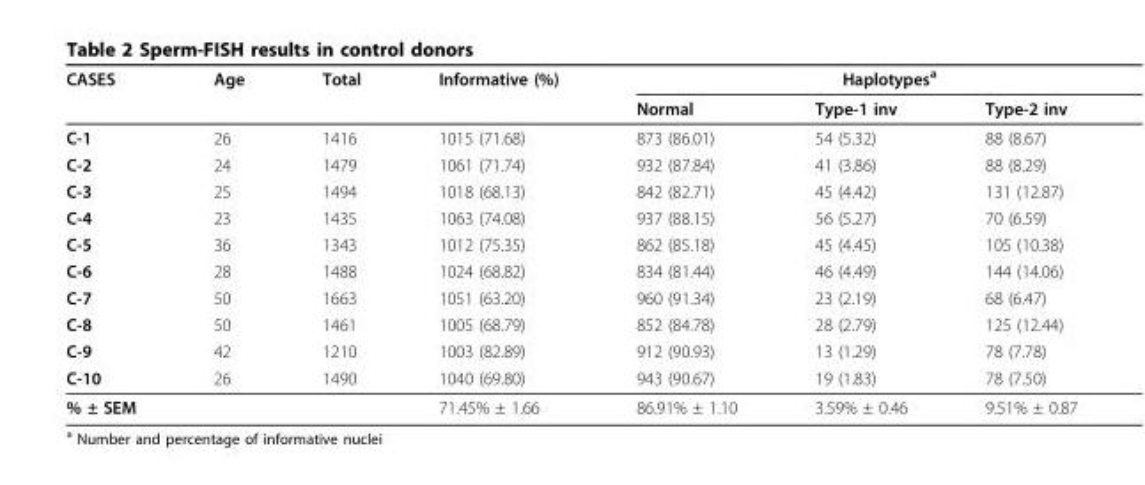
<table><thead><tr><td rowspan="2">CASES</td><td rowspan="2">Age</td><td rowspan="2">Total</td><td rowspan="2">Informative (%)</td><td colspan="3">Haplotypes<sup>a</sup></td></tr><tr><td>Normal</td><td>Type-1 inv</td><td>Type-2 inv</td></tr></thead><tbody><tr><td>C-1</td><td>26</td><td>1416</td><td>1015 (71.68)</td><td>873 (86.01)</td><td>54 (5.32)</td><td>88 (8.67)</td></tr><tr><td>C-2</td><td>24</td><td>1479</td><td>1061 (71.74)</td><td>932 (87.84)</td><td>41 (3.86)</td><td>88 (8.29)</td></tr><tr><td>C-3</td><td>25</td><td>1494</td><td>1018 (68.13)</td><td>842 (82.71)</td><td>45 (4.42)</td><td>131 (12.87)</td></tr><tr><td>C-4</td><td>23</td><td>1435</td><td>1063 (74.08)</td><td>937 (88.15)</td><td>56 (5.27)</td><td>70 (6.59)</td></tr><tr><td>C-5</td><td>36</td><td>1343</td><td>1012 (75.35)</td><td>862 (85.18)</td><td>45 (4.45)</td><td>105 (10.38)</td></tr><tr><td>C-6</td><td>28</td><td>1488</td><td>1024 (68.82)</td><td>834 (81.44)</td><td>46 (4.49)</td><td>144 (14.06)</td></tr><tr><td>C-7</td><td>50</td><td>1663</td><td>1051 (63.20)</td><td>960 (91.34)</td><td>23 (2.19)</td><td>68 (6.47)</td></tr><tr><td>C-8</td><td>50</td><td>1461</td><td>1005 (68.79)</td><td>852 (84.78)</td><td>28 (2.79)</td><td>125 (12.44)</td></tr><tr><td>C-9</td><td>42</td><td>1210</td><td>1003 (82.89)</td><td>912 (90.93)</td><td>13 (1.29)</td><td>78 (7.78)</td></tr><tr><td>C-10</td><td>26</td><td>1490</td><td>1040 (69.80)</td><td>943 (90.67)</td><td>19 (1.83)</td><td>78 (7.50)</td></tr><tr><td>% ± SEM</td><td></td><td></td><td>71.45% ± 1.66</td><td>86.91% ± 1.10</td><td>3.59% ± 0.46</td><td>9.51% ± 0.87</td></tr></tbody></table>